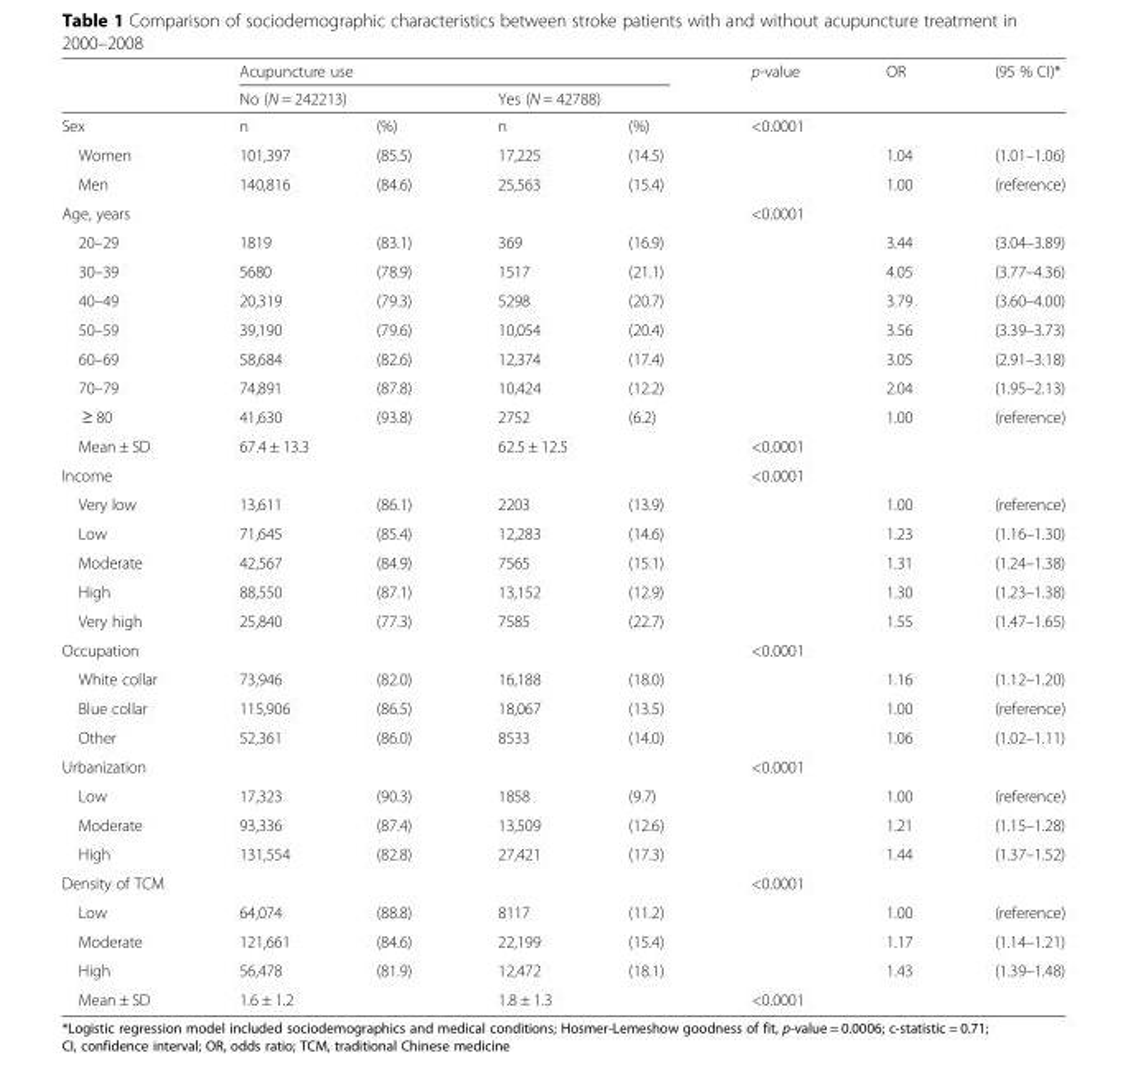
<table><thead><tr><td rowspan="3">Sex</td><td colspan="4">Acupuncture use</td><td rowspan="3">p-value &lt;0.0001</td><td rowspan="3">OR</td><td rowspan="3">(95 % CI)*</td></tr><tr><td colspan="2">No (N = 242213)</td><td colspan="2">Yes (N = 42788)</td></tr><tr><td>n</td><td>(%)</td><td>n</td><td>(%)</td></tr></thead><tbody><tr><td>Women</td><td>101,397</td><td>(85.5)</td><td>17,225</td><td>(14.5)</td><td></td><td>1.04</td><td>(1.01–1.06)</td></tr><tr><td>Men</td><td>140,816</td><td>(84.6)</td><td>25,563</td><td>(15.4)</td><td></td><td>1.00</td><td>(reference)</td></tr><tr><td colspan="5">Age, years</td><td>&lt;0.0001</td><td></td><td></td></tr><tr><td>20–29</td><td>1819</td><td>(83.1)</td><td>369</td><td>(16.9)</td><td></td><td>3.44</td><td>(3.04–3.89)</td></tr><tr><td>30–39</td><td>5680</td><td>(78.9)</td><td>1517</td><td>(21.1)</td><td></td><td>4.05</td><td>(3.77–4.36)</td></tr><tr><td>40–49</td><td>20,319</td><td>(79.3)</td><td>5298</td><td>(20.7)</td><td></td><td>3.79</td><td>(3.60–4.00)</td></tr><tr><td>50–59</td><td>39,190</td><td>(79.6)</td><td>10,054</td><td>(20.4)</td><td></td><td>3.56</td><td>(3.39–3.73)</td></tr><tr><td>60–69</td><td>58,684</td><td>(82.6)</td><td>12,374</td><td>(17.4)</td><td></td><td>3.05</td><td>(2.91–3.18)</td></tr><tr><td>70–79</td><td>74,891</td><td>(87.8)</td><td>10,424</td><td>(12.2)</td><td></td><td>2.04</td><td>(1.95–2.13)</td></tr><tr><td>≥ 80</td><td>41,630</td><td>(93.8)</td><td>2752</td><td>(6.2)</td><td></td><td>1.00</td><td>(reference)</td></tr><tr><td>Mean ± SD</td><td colspan="2">67.4 ± 13.3</td><td colspan="2">62.5 ± 12.5</td><td>&lt;0.0001</td><td></td><td></td></tr><tr><td colspan="5">Income</td><td>&lt;0.0001</td><td></td><td></td></tr><tr><td>Very low</td><td>13,611</td><td>(86.1)</td><td>2203</td><td>(13.9)</td><td></td><td>1.00</td><td>(reference)</td></tr><tr><td>Low</td><td>71,645</td><td>(85.4)</td><td>12,283</td><td>(14.6)</td><td></td><td>1.23</td><td>(1.16–1.30)</td></tr><tr><td>Moderate</td><td>42,567</td><td>(84.9)</td><td>7565</td><td>(15.1)</td><td></td><td>1.31</td><td>(1.24–1.38)</td></tr><tr><td>High</td><td>88,550</td><td>(87.1)</td><td>13,152</td><td>(12.9)</td><td></td><td>1.30</td><td>(1.23–1.38)</td></tr><tr><td>Very high</td><td>25,840</td><td>(77.3)</td><td>7585</td><td>(22.7)</td><td></td><td>1.55</td><td>(1.47–1.65)</td></tr><tr><td colspan="5">Occupation</td><td>&lt;0.0001</td><td></td><td></td></tr><tr><td>White collar</td><td>73,946</td><td>(82.0)</td><td>16,188</td><td>(18.0)</td><td></td><td>1.16</td><td>(1.12–1.20)</td></tr><tr><td>Blue collar</td><td>115,906</td><td>(86.5)</td><td>18,067</td><td>(13.5)</td><td></td><td>1.00</td><td>(reference)</td></tr><tr><td>Other</td><td>52,361</td><td>(86.0)</td><td>8533</td><td>(14.0)</td><td></td><td>1.06</td><td>(1.02–1.11)</td></tr><tr><td colspan="5">Urbanization</td><td>&lt;0.0001</td><td></td><td></td></tr><tr><td>Low</td><td>17,323</td><td>(90.3)</td><td>1858</td><td>(9.7)</td><td></td><td>1.00</td><td>(reference)</td></tr><tr><td>Moderate</td><td>93,336</td><td>(87.4)</td><td>13,509</td><td>(12.6)</td><td></td><td>1.21</td><td>(1.15–1.28)</td></tr><tr><td>High</td><td>131,554</td><td>(82.8)</td><td>27,421</td><td>(17.3)</td><td></td><td>1.44</td><td>(1.37–1.52)</td></tr><tr><td colspan="5">Density of TCM</td><td>&lt;0.0001</td><td></td><td></td></tr><tr><td>Low</td><td>64,074</td><td>(88.8)</td><td>8117</td><td>(11.2)</td><td></td><td>1.00</td><td>(reference)</td></tr><tr><td>Moderate</td><td>121,661</td><td>(84.6)</td><td>22,199</td><td>(15.4)</td><td></td><td>1.17</td><td>(1.14–1.21)</td></tr><tr><td>High</td><td>56,478</td><td>(81.9)</td><td>12,472</td><td>(18.1)</td><td></td><td>1.43</td><td>(1.39–1.48)</td></tr><tr><td>Mean ± SD</td><td colspan="2">1.6 ± 1.2</td><td colspan="2">1.8 ± 1.3</td><td>&lt;0.0001</td><td></td><td></td></tr></tbody></table>